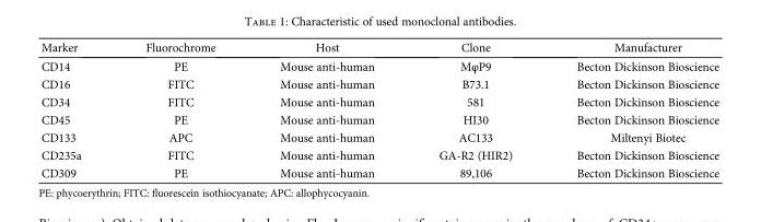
<table><thead><tr><td>Marker</td><td>Fluorochrome</td><td>Host</td><td>Clone</td><td>Manufacturer</td></tr></thead><tbody><tr><td>CD14</td><td>PE</td><td>Mouse anti-human</td><td>MφP9</td><td>Becton Dickinson Bioscience</td></tr><tr><td>CD16</td><td>FITC</td><td>Mouse anti-human</td><td>B73.1</td><td>Becton Dickinson Bioscience</td></tr><tr><td>CD34</td><td>FITC</td><td>Mouse anti-human</td><td>581</td><td>Becton Dickinson Bioscience</td></tr><tr><td>CD45</td><td>PE</td><td>Mouse anti-human</td><td>HI30</td><td>Becton Dickinson Bioscience</td></tr><tr><td>CD133</td><td>APC</td><td>Mouse anti-human</td><td>AC133</td><td>Miltenyi Biotec</td></tr><tr><td>CD235a</td><td>FITC</td><td>Mouse anti-human</td><td>GA-R2 (HIR2)</td><td>Becton Dickinson Bioscience</td></tr><tr><td>CD309</td><td>PE</td><td>Mouse anti-human</td><td>89,106</td><td>Becton Dickinson Bioscience</td></tr></tbody></table>